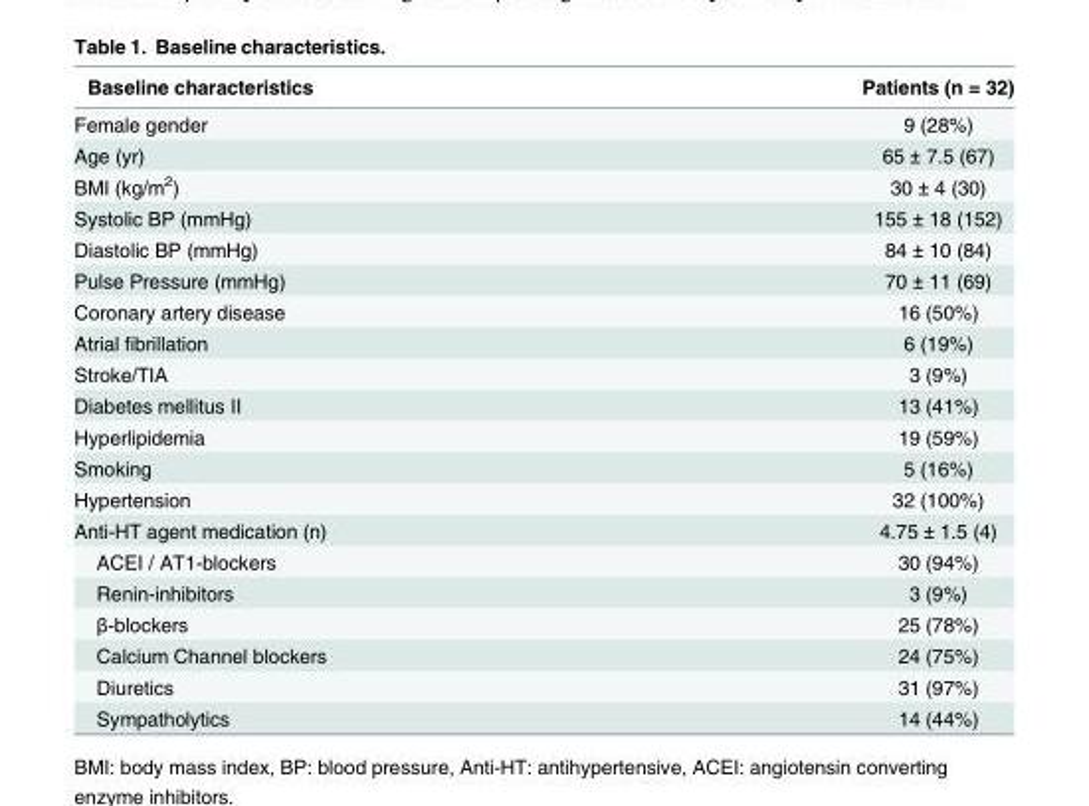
<table><thead><tr><td>Baseline characteristics</td><td>Patients (n = 32)</td></tr></thead><tbody><tr><td>Female gender</td><td>9 (28%)</td></tr><tr><td>Age (yr)</td><td>65 ± 7.5 (67)</td></tr><tr><td>BMI (kg/m<sup>2</sup>)</td><td>30 ± 4 (30)</td></tr><tr><td>Systolic BP (mmHg)</td><td>155 ± 18 (152)</td></tr><tr><td>Diastolic BP (mmHg)</td><td>84 ± 10 (84)</td></tr><tr><td>Pulse Pressure (mmHg)</td><td>70 ± 11 (69)</td></tr><tr><td>Coronary artery disease</td><td>16 (50%)</td></tr><tr><td>Atrial fibrillation</td><td>6 (19%)</td></tr><tr><td>Stroke/TIA</td><td>3 (9%)</td></tr><tr><td>Diabetes mellitus II</td><td>13 (41%)</td></tr><tr><td>Hyperlipidemia</td><td>19 (59%)</td></tr><tr><td>Smoking</td><td>5 (16%)</td></tr><tr><td>Hypertension</td><td>32 (100%)</td></tr><tr><td>Anti-HT agent medication (n)</td><td>4.75 ± 1.5 (4)</td></tr><tr><td>ACEI / AT1-blockers</td><td>30 (94%)</td></tr><tr><td>Renin-inhibitors</td><td>3 (9%)</td></tr><tr><td>β-blockers</td><td>25 (78%)</td></tr><tr><td>Calcium Channel blockers</td><td>24 (75%)</td></tr><tr><td>Diuretics</td><td>31 (97%)</td></tr><tr><td>Sympatholytics</td><td>14 (44%)</td></tr></tbody></table>